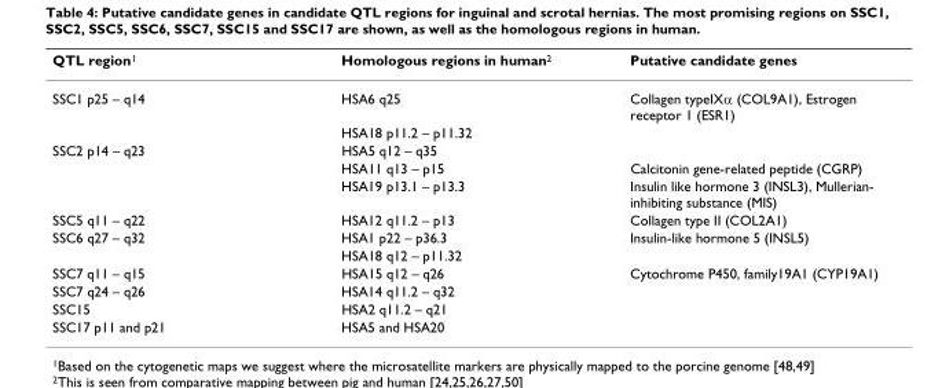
<table><thead><tr><td>QTL region<sup>1</sup></td><td>Homologous regions in human<sup>2</sup></td><td>Putative candidate genes</td></tr></thead><tbody><tr><td rowspan="2">SSC1 p25 – q14</td><td>HSA6 q25</td><td>Collagen typeIXα (COL9A1), Estrogen receptor 1 (ESR1)</td></tr><tr><td>HSA18 p11.2 – p11.32</td><td></td></tr><tr><td rowspan="3">SSC2 p14 – q23</td><td>HSA5 q12 – q35</td><td></td></tr><tr><td>HSA11 q13 – p15</td><td>Calcitonin gene-related peptide (CGRP)</td></tr><tr><td>HSA19 p13.1 – p13.3</td><td>Insulin like hormone 3 (INSL3), Mullerian- inhibiting substance (MIS)</td></tr><tr><td>SSC5 q11 – q22</td><td>HSA12 q11.2 – p13</td><td>Collagen type II (COL2A1)</td></tr><tr><td rowspan="2">SSC6 q27 – q32</td><td>HSA1 p22 – p36.3</td><td>Insulin-like hormone 5 (INSL5)</td></tr><tr><td>HSA18 q12 – p11.32</td><td></td></tr><tr><td>SSC7 q11 – q15</td><td>HSA15 q12 – q26</td><td>Cytochrome P450, family19A1 (CYP19A1)</td></tr><tr><td>SSC7 q24 – q26</td><td>HSA14 q11.2 – q32</td><td></td></tr><tr><td>SSC15</td><td>HSA2 q11.2 – q21</td><td></td></tr><tr><td>SSC17 p11 and p21</td><td>HSA5 and HSA20</td><td></td></tr></tbody></table>